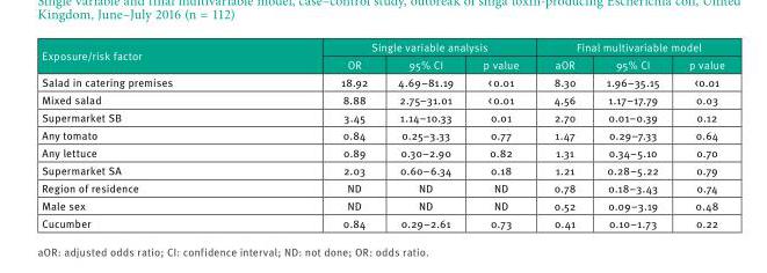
<table><thead><tr><td rowspan="2">Exposure/risk factor</td><td colspan="3">Single variable analysis</td><td colspan="3">Final multivariable model</td></tr><tr><td>OR</td><td>95% CI</td><td>p value</td><td>aOR</td><td>95% CI</td><td>p value</td></tr></thead><tbody><tr><td>Salad in catering premises</td><td>18.92</td><td>4.69–81.19</td><td>&lt; 0.01</td><td>8.30</td><td>1.96–35.15</td><td>&lt;0.01</td></tr><tr><td>Mixed salad</td><td>8.88</td><td>2.75–31.01</td><td>&lt; 0.01</td><td>4.56</td><td>1.17–17.79</td><td>0.03</td></tr><tr><td>Supermarket SB</td><td>3.45</td><td>1.14–10.33</td><td>0.01</td><td>2.70</td><td>0.01–0.39</td><td>0.12</td></tr><tr><td>Any tomato</td><td>0.84</td><td>0.25–3.33</td><td>0.77</td><td>1.47</td><td>0.29–7.33</td><td>0.64</td></tr><tr><td>Any lettuce</td><td>0.89</td><td>0.30–2.90</td><td>0.82</td><td>1.31</td><td>0.34–5.10</td><td>0.70</td></tr><tr><td>Supermarket SA</td><td>2.03</td><td>0.60–6.34</td><td>0.18</td><td>1.21</td><td>0.28–5.22</td><td>0.79</td></tr><tr><td>Region of residence</td><td>ND</td><td>ND</td><td>ND</td><td>0.78</td><td>0.18–3.43</td><td>0.74</td></tr><tr><td>Male sex</td><td>ND</td><td>ND</td><td>ND</td><td>0.52</td><td>0.09–3.19</td><td>0.48</td></tr><tr><td>Cucumber</td><td>0.84</td><td>0.29–2.61</td><td>0.73</td><td>0.41</td><td>0.10–1.73</td><td>0.22</td></tr></tbody></table>